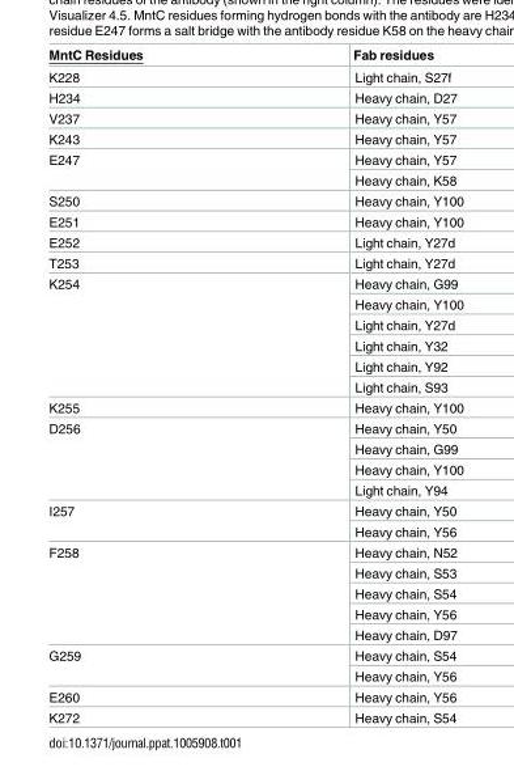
<table><thead><tr><td>MntC Residues</td><td>Fab residues</td></tr></thead><tbody><tr><td>K228</td><td>Light chain, S27f</td></tr><tr><td>H234</td><td>Heavy chain, D27</td></tr><tr><td>V237</td><td>Heavy chain, Y57</td></tr><tr><td>K243</td><td>Heavy chain, Y57</td></tr><tr><td rowspan="2">E247</td><td>Heavy chain, Y57</td></tr><tr><td>Heavy chain, K58</td></tr><tr><td>S250</td><td>Heavy chain, Y100</td></tr><tr><td>E251</td><td>Heavy chain, Y100</td></tr><tr><td>E252</td><td>Light chain, Y27d</td></tr><tr><td>T253</td><td>Light chain, Y27d</td></tr><tr><td rowspan="6">K254</td><td>Heavy chain, G99</td></tr><tr><td>Heavy chain, Y100</td></tr><tr><td>Light chain, Y27d</td></tr><tr><td>Light chain, Y32</td></tr><tr><td>Light chain, Y92</td></tr><tr><td>Light chain, S93</td></tr><tr><td>K255</td><td>Heavy chain, Y100</td></tr><tr><td rowspan="4">D256</td><td>Heavy chain, Y50</td></tr><tr><td>Heavy chain, G99</td></tr><tr><td>Heavy chain, Y100</td></tr><tr><td>Light chain, Y94</td></tr><tr><td rowspan="2">I257</td><td>Heavy chain, Y50</td></tr><tr><td>Heavy chain, Y56</td></tr><tr><td rowspan="5">F258</td><td>Heavy chain, N52</td></tr><tr><td>Heavy chain, S53</td></tr><tr><td>Heavy chain, S54</td></tr><tr><td>Heavy chain, Y56</td></tr><tr><td>Heavy chain, D97</td></tr><tr><td rowspan="2">G259</td><td>Heavy chain, S54</td></tr><tr><td>Heavy chain, Y56</td></tr><tr><td>E260</td><td>Heavy chain, Y56</td></tr><tr><td>K272</td><td>Heavy chain, S54</td></tr></tbody></table>